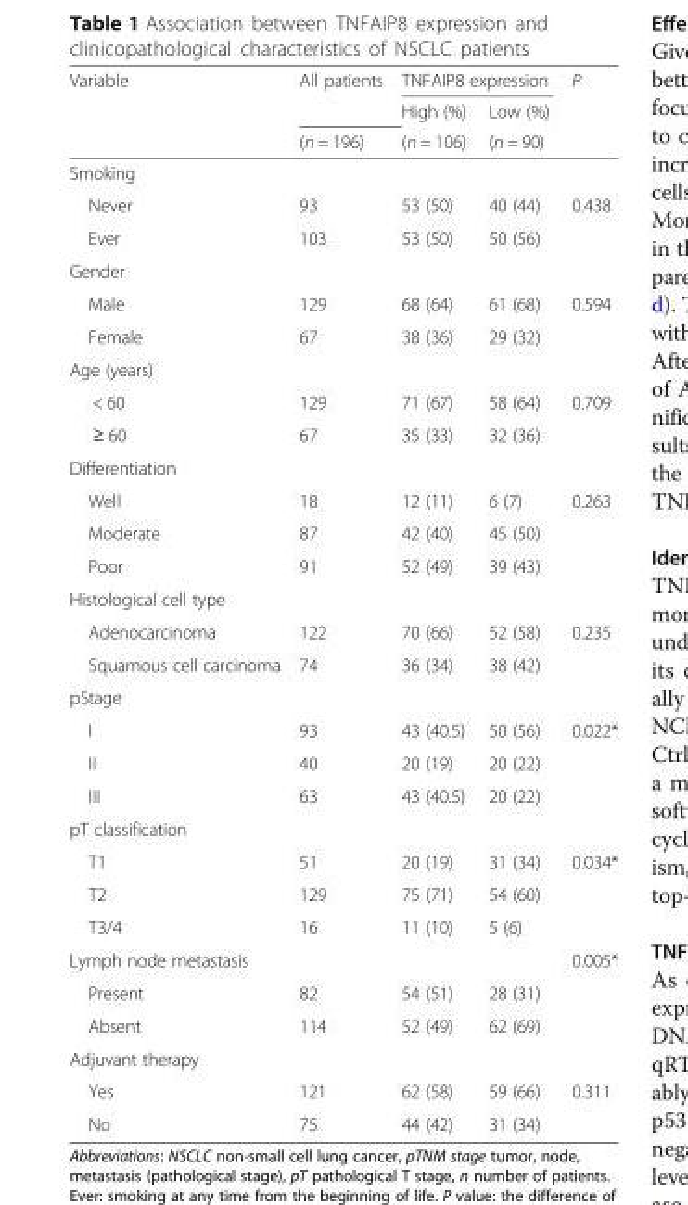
<table><thead><tr><td rowspan="3">Variable</td><td rowspan="3">All patients (n = 196)</td><td colspan="2">TNFAIP8 expression</td><td rowspan="3">P</td></tr><tr><td rowspan="2">High (%) (n = 106)</td><td rowspan="2">Low (%) (n = 90)</td></tr><tr></tr></thead><tbody><tr><td colspan="5">Smoking</td></tr><tr><td>Never</td><td>93</td><td>53 (50)</td><td>40 (44)</td><td rowspan="2">0.438</td></tr><tr><td>Ever</td><td>103</td><td>53 (50)</td><td>50 (56)</td></tr><tr><td colspan="5">Gender</td></tr><tr><td>Male</td><td>129</td><td>68 (64)</td><td>61 (68)</td><td rowspan="2">0.594</td></tr><tr><td>Female</td><td>67</td><td>38 (36)</td><td>29 (32)</td></tr><tr><td colspan="5">Age (years)</td></tr><tr><td>&lt; 60</td><td>129</td><td>71 (67)</td><td>58 (64)</td><td rowspan="2">0.709</td></tr><tr><td>≥ 60</td><td>67</td><td>35 (33)</td><td>32 (36)</td></tr><tr><td colspan="5">Differentiation</td></tr><tr><td>Well</td><td>18</td><td>12 (11)</td><td>6 (7)</td><td rowspan="3">0.263</td></tr><tr><td>Moderate</td><td>87</td><td>42 (40)</td><td>45 (50)</td></tr><tr><td>Poor</td><td>91</td><td>52 (49)</td><td>39 (43)</td></tr><tr><td colspan="5">Histological cell type</td></tr><tr><td>Adenocarcinoma</td><td>122</td><td>70 (66)</td><td>52 (58)</td><td rowspan="2">0.235</td></tr><tr><td>Squamous cell carcinoma</td><td>74</td><td>36 (34)</td><td>38 (42)</td></tr><tr><td colspan="5">pStage</td></tr><tr><td>I</td><td>93</td><td>43 (40.5)</td><td>50 (56)</td><td rowspan="3">0.022*</td></tr><tr><td>II</td><td>40</td><td>20 (19)</td><td>20 (22)</td></tr><tr><td>III</td><td>63</td><td>43 (40.5)</td><td>20 (22)</td></tr><tr><td colspan="5">pT classification</td></tr><tr><td>T1</td><td>51</td><td>20 (19)</td><td>31 (34)</td><td rowspan="3">0.034*</td></tr><tr><td>T2</td><td>129</td><td>75 (71)</td><td>54 (60)</td></tr><tr><td>T3/4</td><td>16</td><td>11 (10)</td><td>5 (6)</td></tr><tr><td colspan="4">Lymph node metastasis</td><td>0.005*</td></tr><tr><td>Present</td><td>82</td><td>54 (51)</td><td>28 (31)</td><td></td></tr><tr><td>Absent</td><td>114</td><td>52 (49)</td><td>62 (69)</td><td></td></tr><tr><td colspan="5">Adjuvant therapy</td></tr><tr><td>Yes</td><td>121</td><td>62 (58)</td><td>59 (66)</td><td rowspan="2">0.311</td></tr><tr><td>No</td><td>75</td><td>44 (42)</td><td>31 (34)</td></tr></tbody></table>